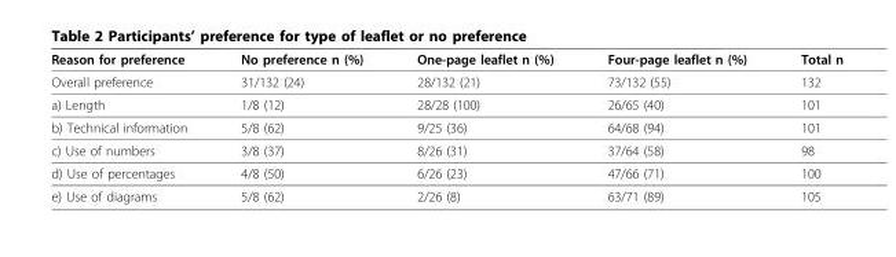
<table><thead><tr><td>Reason for preference</td><td>No preference n (%)</td><td>One-page leaflet n (%)</td><td>Four-page leaflet n (%)</td><td>Total n</td></tr></thead><tbody><tr><td>Overall preference</td><td>31/132 (24)</td><td>28/132 (21)</td><td>73/132 (55)</td><td>132</td></tr><tr><td>a) Length</td><td>1/8 (12)</td><td>28/28 (100)</td><td>26/65 (40)</td><td>101</td></tr><tr><td>b) Technical information</td><td>5/8 (62)</td><td>9/25 (36)</td><td>64/68 (94)</td><td>101</td></tr><tr><td>c) Use of numbers</td><td>3/8 (37)</td><td>8/26 (31)</td><td>37/64 (58)</td><td>98</td></tr><tr><td>d) Use of percentages</td><td>4/8 (50)</td><td>6/26 (23)</td><td>47/66 (71)</td><td>100</td></tr><tr><td>e) Use of diagrams</td><td>5/8 (62)</td><td>2/26 (8)</td><td>63/71 (89)</td><td>105</td></tr></tbody></table>